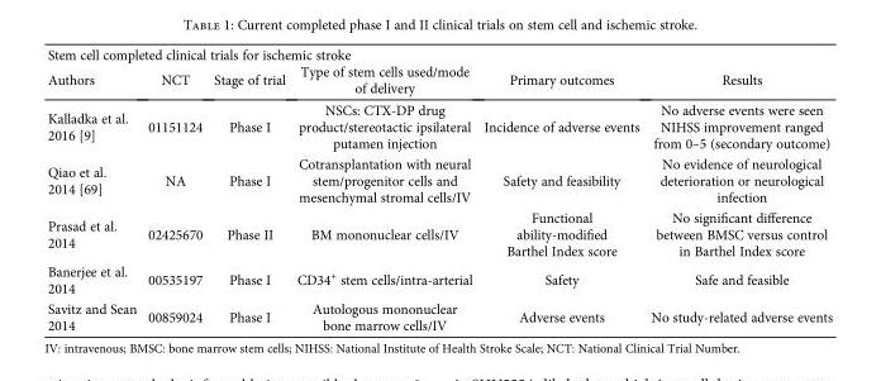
<table><thead><tr><td colspan="6">Stem cell completed clinical trials for ischemic stroke</td></tr><tr><td>Authors</td><td>NCT</td><td>Stage of trial</td><td>Type of stem cells used/mode of delivery</td><td>Primary outcomes</td><td>Results</td></tr></thead><tbody><tr><td>Kalladka et al. 2016 [9]</td><td>01151124</td><td>Phase I</td><td>NSCs: CTX-DP drug product/stereotactic ipsilateral putamen injection</td><td>Incidence of adverse events</td><td>No adverse events were seen NIHSS improvement ranged from 0–5 (secondary outcome)</td></tr><tr><td>Qiao et al. 2014 [69]</td><td>NA</td><td>Phase I</td><td>Cotransplantation with neural stem/progenitor cells and mesenchymal stromal cells/IV</td><td>Safety and feasibility</td><td>No evidence of neurological deterioration or neurological infection</td></tr><tr><td>Prasad et al. 2014</td><td>02425670</td><td>Phase II</td><td>BM mononuclear cells/IV</td><td>Functional ability-modified Barthel Index score</td><td>No significant difference between BMSC versus control in Barthel Index score</td></tr><tr><td>Banerjee et al. 2014</td><td>00535197</td><td>Phase I</td><td>CD34<sup>+</sup> stem cells/intra-arterial</td><td>Safety</td><td>Safe and feasible</td></tr><tr><td>Savitz and Sean 2014</td><td>00859024</td><td>Phase I</td><td>Autologous mononuclear bone marrow cells/IV</td><td>Adverse events</td><td>No study-related adverse events</td></tr></tbody></table>